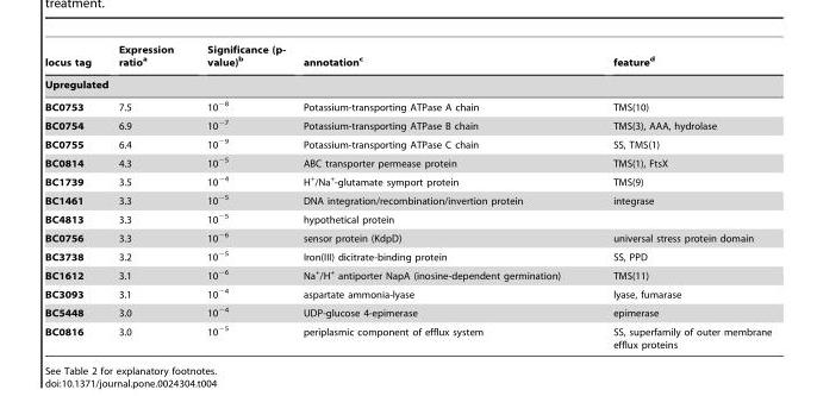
<table><thead><tr><td>locus tag</td><td>Expression ratio<sup>a</sup></td><td>Significance (p- value)<sup>b</sup></td><td>annotation<sup>c</sup></td><td>feature<sup>d</sup></td></tr><tr><td colspan="5">Upregulated</td></tr></thead><tbody><tr><td>BC0753</td><td>7.5</td><td>10<sup>−8</sup></td><td>Potassium-transporting ATPase A chain</td><td>TMS(10)</td></tr><tr><td>BC0754</td><td>6.9</td><td>10<sup>−7</sup></td><td>Potassium-transporting ATPase B chain</td><td>TMS(3), AAA, hydrolase</td></tr><tr><td>BC0755</td><td>6.4</td><td>10<sup>−9</sup></td><td>Potassium-transporting ATPase C chain</td><td>SS, TMS(1)</td></tr><tr><td>BC0814</td><td>4.3</td><td>10<sup>−5</sup></td><td>ABC transporter permease protein</td><td>TMS(1), FtsX</td></tr><tr><td>BC1739</td><td>3.5</td><td>10<sup>−4</sup></td><td>H<sup>+</sup>/Na<sup>+</sup>-glutamate symport protein</td><td>TMS(9)</td></tr><tr><td>BC1461</td><td>3.3</td><td>10<sup>−5</sup></td><td>DNA integration/recombination/invertion protein</td><td>integrase</td></tr><tr><td>BC4813</td><td>3.3</td><td>10<sup>−5</sup></td><td>hypothetical protein</td><td></td></tr><tr><td>BC0756</td><td>3.3</td><td>10<sup>−6</sup></td><td>sensor protein (KdpD)</td><td>universal stress protein domain</td></tr><tr><td>BC3738</td><td>3.2</td><td>10<sup>−5</sup></td><td>Iron(III) dicitrate-binding protein</td><td>SS, PPD</td></tr><tr><td>BC1612</td><td>3.1</td><td>10<sup>−6</sup></td><td>Na<sup>+</sup>/H<sup>+</sup> antiporter NapA (inosine-dependent germination)</td><td>TMS(11)</td></tr><tr><td>BC3093</td><td>3.1</td><td>10<sup>−4</sup></td><td>aspartate ammonia-lyase</td><td>lyase, fumarase</td></tr><tr><td>BC5448</td><td>3.0</td><td>10<sup>−4</sup></td><td>UDP-glucose 4-epimerase</td><td>epimerase</td></tr><tr><td>BC0816</td><td>3.0</td><td>10<sup>−5</sup></td><td>periplasmic component of efflux system</td><td>SS, superfamily of outer membrane efflux proteins</td></tr></tbody></table>